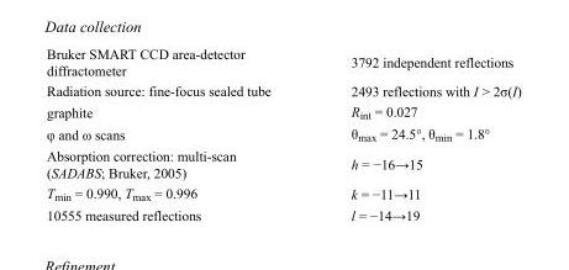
<table><tbody><tr><td>Bruker SMART CCD area-detector diffractometer</td><td>3792 independent reflections</td></tr><tr><td>Radiation source: fine-focus sealed tube</td><td>2493 reflections with I &gt; 2σ(I)</td></tr><tr><td>graphite</td><td>R<sub>int</sub> = 0.027</td></tr><tr><td>φ and ω scans</td><td>θ<sub>max</sub> = 24.5°, θ<sub>min</sub> = 1.8°</td></tr><tr><td>Absorption correction: multi-scan (SADABS; Bruker, 2005)</td><td>h = −16→15</td></tr><tr><td>T<sub>min</sub> = 0.990, T<sub>max</sub> = 0.996</td><td>k = −11→11</td></tr><tr><td>10555 measured reflections</td><td>l = −14→19</td></tr></tbody></table>